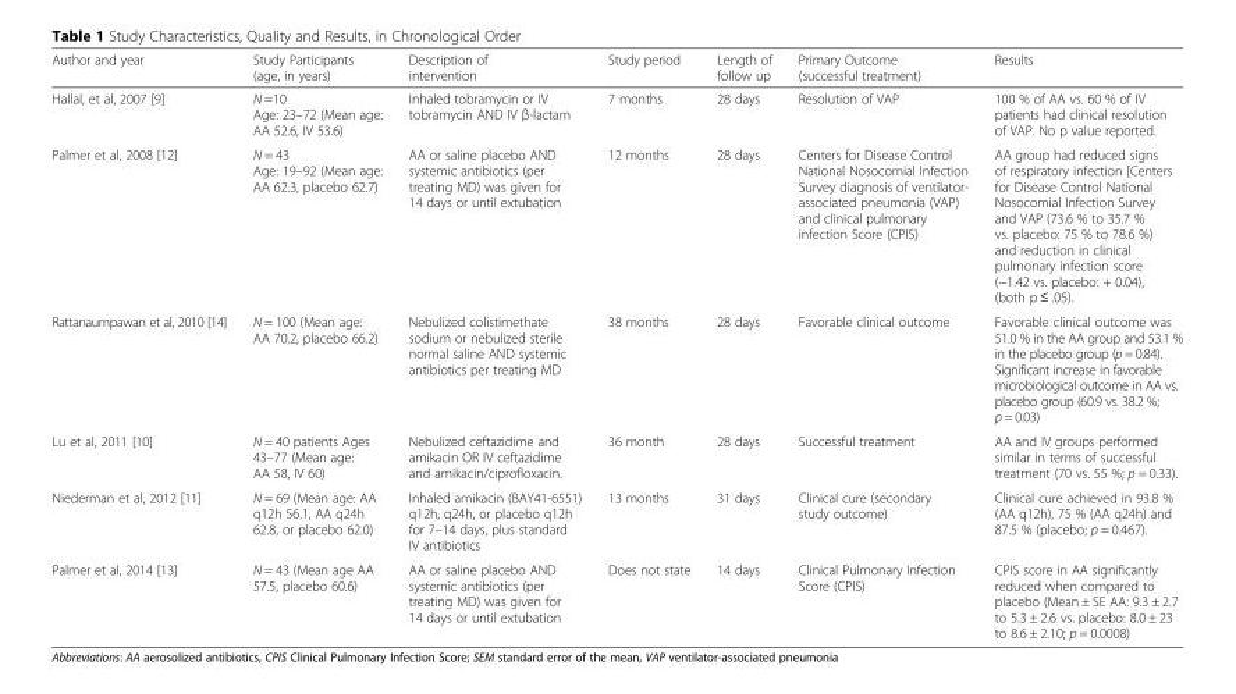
<table><thead><tr><td>Author and year</td><td>Study Participants (age, in years)</td><td>Description of intervention</td><td>Study period</td><td>Length of follow up</td><td>Primary Outcome (successful treatment)</td><td>Results</td></tr></thead><tbody><tr><td rowspan="2">Hallal, et al, 2007 [9]</td><td>N =10</td><td rowspan="2">Inhaled tobramycin or IV tobramycin AND IV β-lactam</td><td rowspan="2">7 months</td><td rowspan="2">28 days</td><td rowspan="2">Resolution of VAP</td><td rowspan="2">100 % of AA vs. 60 % of IV patients had clinical resolution of VAP. No p value reported.</td></tr><tr><td>Age: 23–72 (Mean age: AA 52.6, IV 53.6)</td></tr><tr><td rowspan="2">Palmer et al, 2008 [12]</td><td>N = 43</td><td rowspan="2">AA or saline placebo AND systemic antibiotics (per treating MD) was given for 14 days or until extubation</td><td rowspan="2">12 months</td><td rowspan="2">28 days</td><td rowspan="2">Centers for Disease Control National Nosocomial Infection Survey diagnosis of ventilator- associated pneumonia (VAP) and clinical pulmonary infection Score (CPIS)</td><td rowspan="2">AA group had reduced signs of respiratory infection [Centers for Disease Control National Nosocomial Infection Survey and VAP (73.6 % to 35.7 % vs. placebo: 75 % to 78.6 %) and reduction in clinical pulmonary infection score (−1.42 vs. placebo: + 0.04), (both p ≤ .05).</td></tr><tr><td>Age: 19–92 (Mean age: AA 62.3, placebo 62.7)</td></tr><tr><td>Rattanaumpawan et al, 2010 [14]</td><td>N = 100 (Mean age: AA 70.2, placebo 66.2)</td><td>Nebulized colistimethate sodium or nebulized sterile normal saline AND systemic antibiotics per treating MD</td><td>38 months</td><td>28 days</td><td>Favorable clinical outcome</td><td>Favorable clinical outcome was 51.0 % in the AA group and 53.1 % in the placebo group (p = 0.84). Significant increase in favorable microbiological outcome in AA vs. placebo group (60.9 vs. 38.2 %; p = 0.03)</td></tr><tr><td>Lu et al, 2011 [10]</td><td>N = 40 patients Ages 43–77 (Mean age: AA 58, IV 60)</td><td>Nebulized ceftazidime and amikacin OR IV ceftazidime and amikacin/ciprofloxacin.</td><td>36 month</td><td>28 days</td><td>Successful treatment</td><td>AA and IV groups performed similar in terms of successful treatment (70 vs. 55 %; p = 0.33).</td></tr><tr><td>Niederman et al, 2012 [11]</td><td>N = 69 (Mean age: AA q12h 56.1, AA q24h 62.8, or placebo 62.0)</td><td>Inhaled amikacin (BAY41-6551) q12h, q24h, or placebo q12h for 7–14 days, plus standard IV antibiotics</td><td>13 months</td><td>31 days</td><td>Clinical cure (secondary study outcome)</td><td>Clinical cure achieved in 93.8 % (AA q12h), 75 % (AA q24h) and 87.5 % (placebo; p = 0.467).</td></tr><tr><td>Palmer et al, 2014 [13]</td><td>N = 43 (Mean age AA 57.5, placebo 60.6)</td><td>AA or saline placebo AND systemic antibiotics (per treating MD) was given for 14 days or until extubation</td><td>Does not state</td><td>14 days</td><td>Clinical Pulmonary Infection Score (CPIS)</td><td>CPIS score in AA significantly reduced when compared to placebo (Mean ± SE AA: 9.3 ± 2.7 to 5.3 ± 2.6 vs. placebo: 8.0 ± 23 to 8.6 ± 2.10; p = 0.0008)</td></tr></tbody></table>